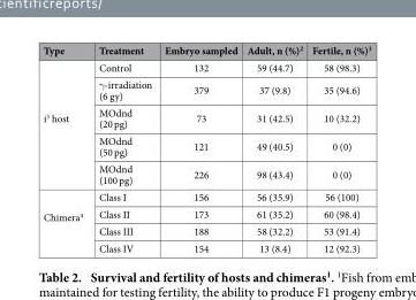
<table><thead><tr><td>Type</td><td>Treatment</td><td>Embryo sampled</td><td>Adult, n (%)<sup>2</sup></td><td>Fertile, n (%)<sup>3</sup></td></tr></thead><tbody><tr><td rowspan="5">i<sup>3</sup> host</td><td>Control</td><td>132</td><td>59 (44.7)</td><td>58 (98.3)</td></tr><tr><td>γ -irradiation (6 gy)</td><td>379</td><td>37 (9.8)</td><td>35 (94.6)</td></tr><tr><td>MOdnd (20 pg)</td><td>73</td><td>31 (42.5)</td><td>10 (32.2)</td></tr><tr><td>MOdnd (50 pg)</td><td>121</td><td>49 (40.5)</td><td>0 (0)</td></tr><tr><td>MOdnd (100 pg)</td><td>226</td><td>98 (43.4)</td><td>0 (0)</td></tr><tr><td rowspan="4">Chimera<sup>4</sup></td><td>Class I</td><td>156</td><td>56 (35.9)</td><td>56 (100)</td></tr><tr><td>Class II</td><td>173</td><td>61 (35.2)</td><td>60 (98.4)</td></tr><tr><td>Class III</td><td>188</td><td>58 (32.2)</td><td>53 (91.4)</td></tr><tr><td>Class IV</td><td>154</td><td>13 (8.4)</td><td>12 (92.3)</td></tr></tbody></table>